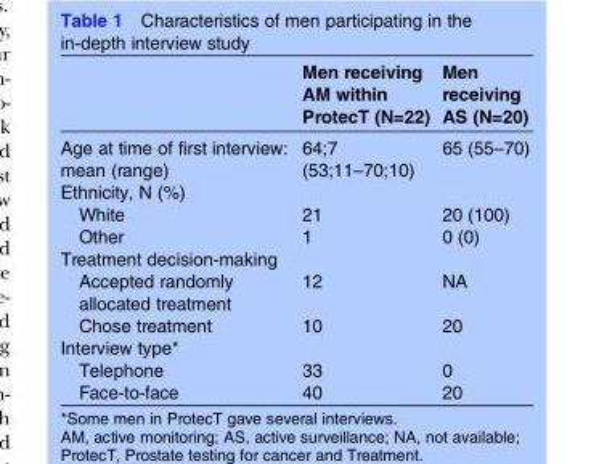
<table><thead><tr><td></td><td>Men receiving AM within ProtecT (N=22)</td><td>Men receiving AS (N=20)</td></tr></thead><tbody><tr><td>Age at time of first interview: mean (range)</td><td>64;7 (53;11–70;10)</td><td>65 (55–70)</td></tr><tr><td colspan="3">Ethnicity, N (%)</td></tr><tr><td>White</td><td>21</td><td>20 (100)</td></tr><tr><td>Other</td><td>1</td><td>0 (0)</td></tr><tr><td colspan="3">Treatment decision-making</td></tr><tr><td>Accepted randomly allocated treatment</td><td>12</td><td>NA</td></tr><tr><td>Chose treatment</td><td>10</td><td>20</td></tr><tr><td colspan="3">Interview type*</td></tr><tr><td>Telephone</td><td>33</td><td>0</td></tr><tr><td>Face-to-face</td><td>40</td><td>20</td></tr></tbody></table>